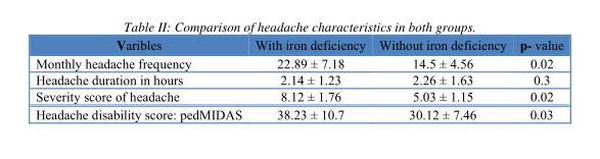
<table><thead><tr><td>Varibles</td><td>With iron deficiency</td><td>Without iron deficiency</td><td>p- value</td></tr></thead><tbody><tr><td>Monthly headache frequency</td><td>22.89 ± 7.18</td><td>14.5 ± 4.56</td><td>0.02</td></tr><tr><td>Headache duration in hours</td><td>2.14 ± 1.23</td><td>2.26 ± 1.63</td><td>0.3</td></tr><tr><td>Severity score of headache</td><td>8.12 ± 1.76</td><td>5.03 ± 1.15</td><td>0.02</td></tr><tr><td>Headache disability score: pedMIDAS</td><td>38.23 ± 10.7</td><td>30.12 ± 7.46</td><td>0.03</td></tr></tbody></table>